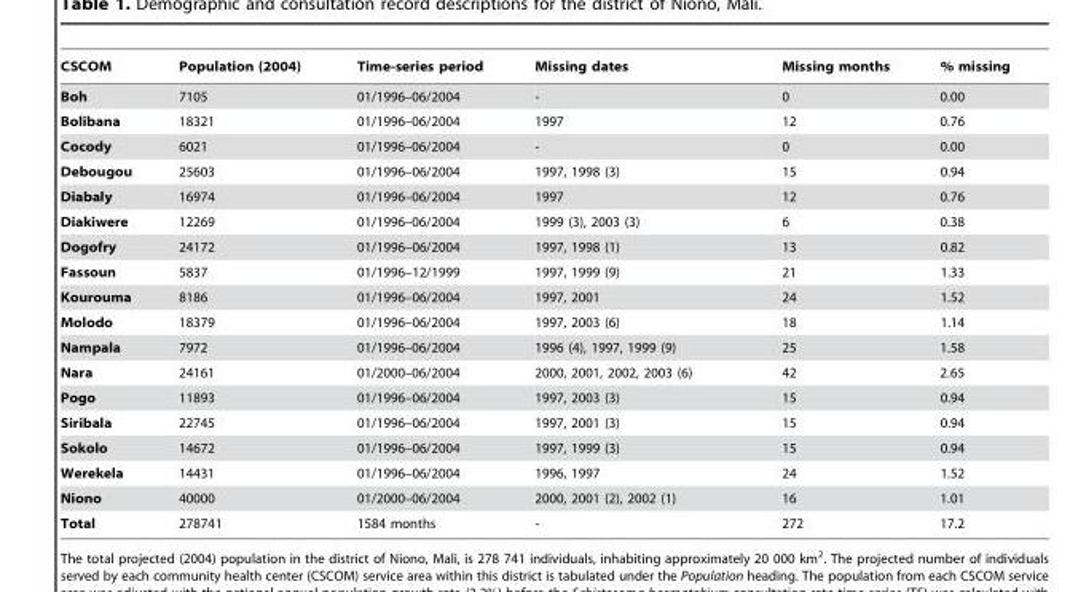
<table><thead><tr><td>CSCOM</td><td>Population (2004)</td><td>Time-series period</td><td>Missing dates</td><td>Missing months</td><td>% missing</td></tr></thead><tbody><tr><td>Boh</td><td>7105</td><td>01/1996–06/2004</td><td>-</td><td>0</td><td>0.00</td></tr><tr><td>Bolibana</td><td>18321</td><td>01/1996–06/2004</td><td>1997</td><td>12</td><td>0.76</td></tr><tr><td>Cocody</td><td>6021</td><td>01/1996–06/2004</td><td>-</td><td>0</td><td>0.00</td></tr><tr><td>Debougou</td><td>25603</td><td>01/1996–06/2004</td><td>1997, 1998 (3)</td><td>15</td><td>0.94</td></tr><tr><td>Diabaly</td><td>16974</td><td>01/1996–06/2004</td><td>1997</td><td>12</td><td>0.76</td></tr><tr><td>Diakiwere</td><td>12269</td><td>01/1996–06/2004</td><td>1999 (3), 2003 (3)</td><td>6</td><td>0.38</td></tr><tr><td>Dogofry</td><td>24172</td><td>01/1996–06/2004</td><td>1997, 1998 (1)</td><td>13</td><td>0.82</td></tr><tr><td>Fassoun</td><td>5837</td><td>01/1996–12/1999</td><td>1997, 1999 (9)</td><td>21</td><td>1.33</td></tr><tr><td>Kourouma</td><td>8186</td><td>01/1996–06/2004</td><td>1997, 2001</td><td>24</td><td>1.52</td></tr><tr><td>Molodo</td><td>18379</td><td>01/1996–06/2004</td><td>1997, 2003 (6)</td><td>18</td><td>1.14</td></tr><tr><td>Nampala</td><td>7972</td><td>01/1996–06/2004</td><td>1996 (4), 1997, 1999 (9)</td><td>25</td><td>1.58</td></tr><tr><td>Nara</td><td>24161</td><td>01/2000–06/2004</td><td>2000, 2001, 2002, 2003 (6)</td><td>42</td><td>2.65</td></tr><tr><td>Pogo</td><td>11893</td><td>01/1996–06/2004</td><td>1997, 2003 (3)</td><td>15</td><td>0.94</td></tr><tr><td>Siribala</td><td>22745</td><td>01/1996–06/2004</td><td>1997, 2001 (3)</td><td>15</td><td>0.94</td></tr><tr><td>Sokolo</td><td>14672</td><td>01/1996–06/2004</td><td>1997, 1999 (3)</td><td>15</td><td>0.94</td></tr><tr><td>Werekela</td><td>14431</td><td>01/1996–06/2004</td><td>1996, 1997</td><td>24</td><td>1.52</td></tr><tr><td>Niono</td><td>40000</td><td>01/2000–06/2004</td><td>2000, 2001 (2), 2002 (1)</td><td>16</td><td>1.01</td></tr><tr><td>Total</td><td>278741</td><td>1584 months</td><td>-</td><td>272</td><td>17.2</td></tr></tbody></table>